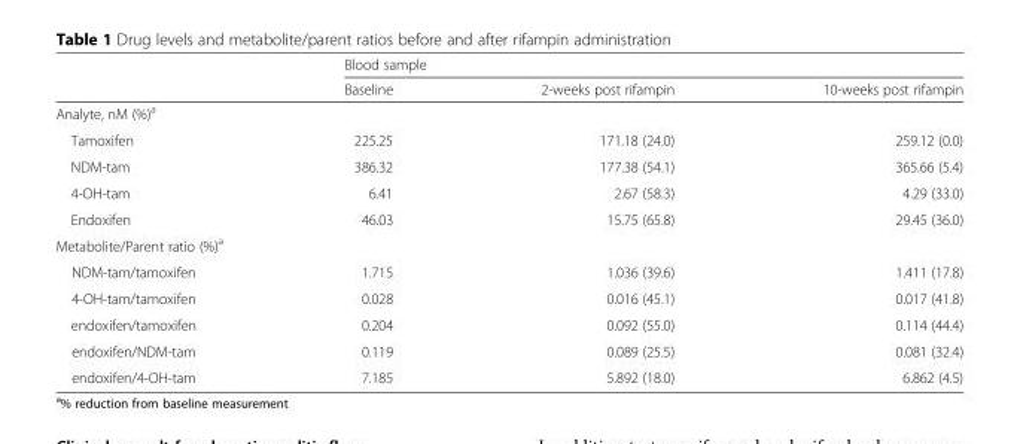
<table><thead><tr><td rowspan="2"></td><td colspan="3">Blood sample</td></tr><tr><td>Baseline</td><td>2-weeks post rifampin</td><td>10-weeks post rifampin</td></tr></thead><tbody><tr><td colspan="4">Analyte, nM (%)<sup>a</sup></td></tr><tr><td>Tamoxifen</td><td>225.25</td><td>171.18 (24.0)</td><td>259.12 (0.0)</td></tr><tr><td>NDM-tam</td><td>386.32</td><td>177.38 (54.1)</td><td>365.66 (5.4)</td></tr><tr><td>4-OH-tam</td><td>6.41</td><td>2.67 (58.3)</td><td>4.29 (33.0)</td></tr><tr><td>Endoxifen</td><td>46.03</td><td>15.75 (65.8)</td><td>29.45 (36.0)</td></tr><tr><td colspan="4">Metabolite/Parent ratio (%)<sup>a</sup></td></tr><tr><td>NDM-tam/tamoxifen</td><td>1.715</td><td>1.036 (39.6)</td><td>1.411 (17.8)</td></tr><tr><td>4-OH-tam/tamoxifen</td><td>0.028</td><td>0.016 (45.1)</td><td>0.017 (41.8)</td></tr><tr><td>endoxifen/tamoxifen</td><td>0.204</td><td>0.092 (55.0)</td><td>0.114 (44.4)</td></tr><tr><td>endoxifen/NDM-tam</td><td>0.119</td><td>0.089 (25.5)</td><td>0.081 (32.4)</td></tr><tr><td>endoxifen/4-OH-tam</td><td>7.185</td><td>5.892 (18.0)</td><td>6.862 (4.5)</td></tr></tbody></table>